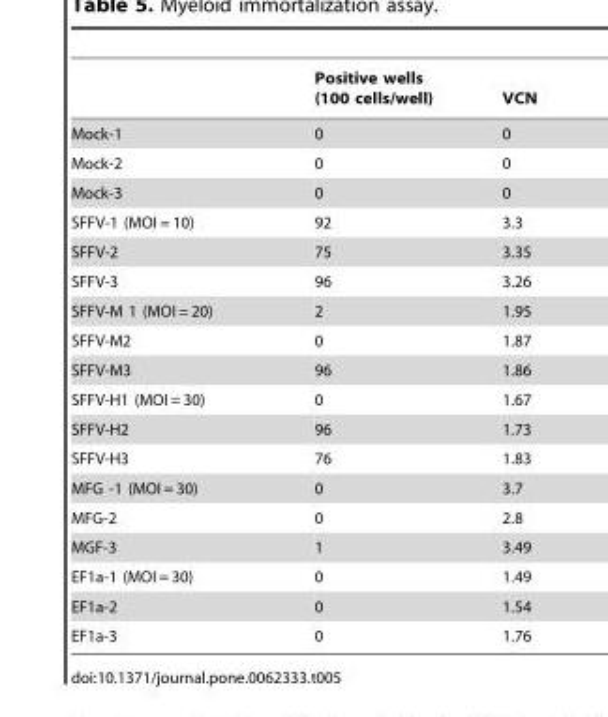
<table><thead><tr><td></td><td>Positive wells (100 cells/well)</td><td>VCN</td></tr></thead><tbody><tr><td>Mock-1</td><td>0</td><td>0</td></tr><tr><td>Mock-2</td><td>0</td><td>0</td></tr><tr><td>Mock-3</td><td>0</td><td>0</td></tr><tr><td>SFFV-1 (MOI = 10)</td><td>92</td><td>3.3</td></tr><tr><td>SFFV-2</td><td>75</td><td>3.35</td></tr><tr><td>SFFV-3</td><td>96</td><td>3.26</td></tr><tr><td>SFFV-M 1 (MOI = 20)</td><td>2</td><td>1.95</td></tr><tr><td>SFFV-M2</td><td>0</td><td>1.87</td></tr><tr><td>SFFV-M3</td><td>96</td><td>1.86</td></tr><tr><td>SFFV-H1 (MOI = 30)</td><td>0</td><td>1.67</td></tr><tr><td>SFFV-H2</td><td>96</td><td>1.73</td></tr><tr><td>SFFV-H3</td><td>76</td><td>1.83</td></tr><tr><td>MFG -1 (MOI = 30)</td><td>0</td><td>3.7</td></tr><tr><td>MFG-2</td><td>0</td><td>2.8</td></tr><tr><td>MGF-3</td><td>1</td><td>3.49</td></tr><tr><td>EF1a-1 (MOI = 30)</td><td>0</td><td>1.49</td></tr><tr><td>EF1a-2</td><td>0</td><td>1.54</td></tr><tr><td>EF1a-3</td><td>0</td><td>1.76</td></tr></tbody></table>